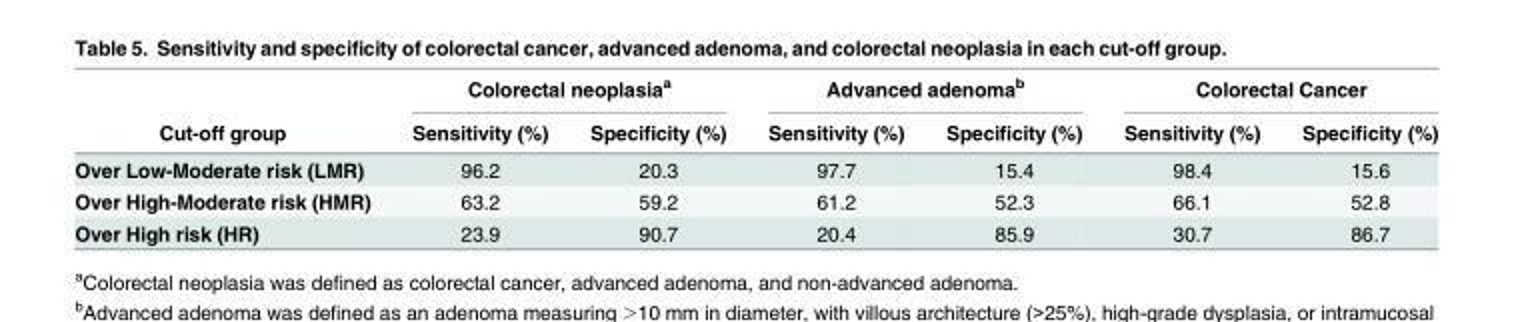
<table><thead><tr><td rowspan="2">Cut-off group</td><td colspan="2">Colorectal neoplasia<sup>a</sup></td><td colspan="2">Advanced adenoma<sup>b</sup></td><td colspan="2">Colorectal Cancer</td></tr><tr><td>Sensitivity (%)</td><td>Specificity (%)</td><td>Sensitivity (%)</td><td>Specificity (%)</td><td>Sensitivity (%)</td><td>Specificity (%)</td></tr></thead><tbody><tr><td>Over Low-Moderate risk (LMR)</td><td>96.2</td><td>20.3</td><td>97.7</td><td>15.4</td><td>98.4</td><td>15.6</td></tr><tr><td>Over High-Moderate risk (HMR)</td><td>63.2</td><td>59.2</td><td>61.2</td><td>52.3</td><td>66.1</td><td>52.8</td></tr><tr><td>Over High risk (HR)</td><td>23.9</td><td>90.7</td><td>20.4</td><td>85.9</td><td>30.7</td><td>86.7</td></tr></tbody></table>